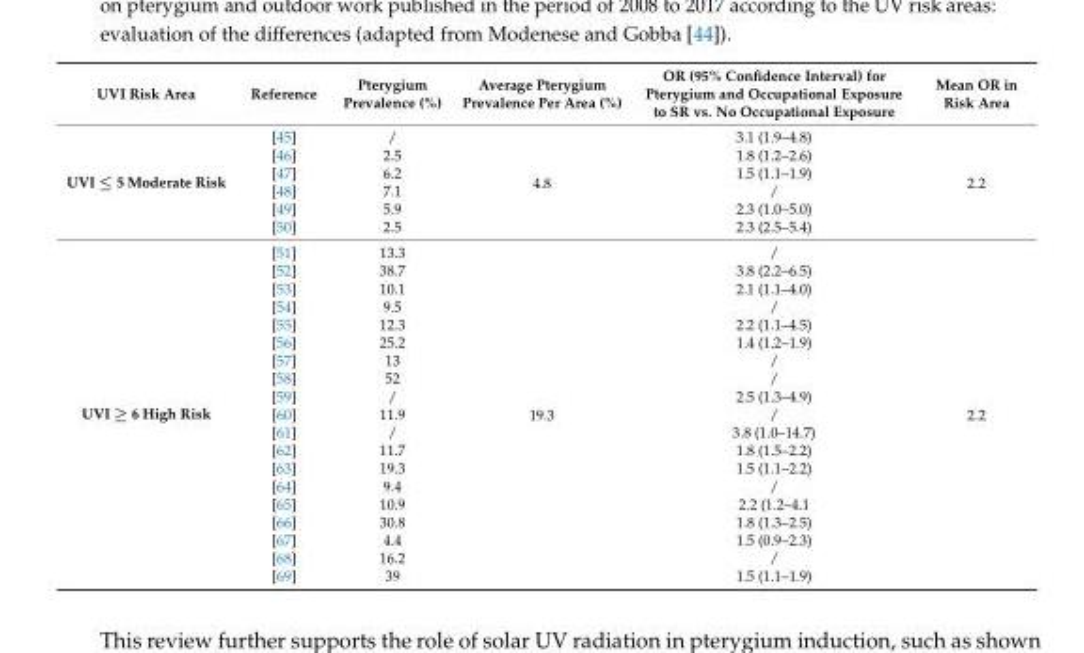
<table><thead><tr><td>UVI Risk Area</td><td>Reference</td><td>Pterygium Prevalence (%)</td><td>Average Pterygium Prevalence Per Area (%)</td><td>OR (95% Confidence Interval) for Pterygium and Occupational Exposure to SR vs. No Occupational Exposure</td><td>Mean OR in Risk Area</td></tr></thead><tbody><tr><td rowspan="6">UVI ≤ 5 Moderate Risk</td><td>[45]</td><td>/</td><td rowspan="6">4.8</td><td>3.1 (1.9–4.8)</td><td rowspan="6">2.2</td></tr><tr><td>[46]</td><td>2.5</td><td>1.8 (1.2–2.6)</td></tr><tr><td>[47]</td><td>6.2</td><td>1.5 (1.1–1.9)</td></tr><tr><td>[48]</td><td>7.1</td><td>/</td></tr><tr><td>[49]</td><td>5.9</td><td>2.3 (1.0–5.0)</td></tr><tr><td>[50]</td><td>2.5</td><td>2.3 (2.5–5.4)</td></tr><tr><td rowspan="19">UVI ≥ 6 High Risk</td><td>[51]</td><td>13.3</td><td rowspan="19">19.3</td><td>/</td><td rowspan="19">2.2</td></tr><tr><td>[52]</td><td>38.7</td><td>3.8 (2.2–6.5)</td></tr><tr><td>[53]</td><td>10.1</td><td>2.1 (1.1–4.0)</td></tr><tr><td>[54]</td><td>9.5</td><td>/</td></tr><tr><td>[55]</td><td>12.3</td><td>2.2 (1.1–4.5)</td></tr><tr><td>[56]</td><td>25.2</td><td>1.4 (1.2–1.9)</td></tr><tr><td>[57]</td><td>13</td><td>/</td></tr><tr><td>[58]</td><td>52</td><td>/</td></tr><tr><td>[59]</td><td>/</td><td>2.5 (1.3–4.9)</td></tr><tr><td>[60]</td><td>11.9</td><td>/</td></tr><tr><td>[61]</td><td>/</td><td>3.8 (1.0–14.7)</td></tr><tr><td>[62]</td><td>11.7</td><td>1.8 (1.5–2.2)</td></tr><tr><td>[63]</td><td>19.3</td><td>1.5 (1.1–2.2)</td></tr><tr><td>[64]</td><td>9.4</td><td>/</td></tr><tr><td>[65]</td><td>10.9</td><td>2.2 (1.2–4.1</td></tr><tr><td>[66]</td><td>30.8</td><td>1.8 (1.3–2.5)</td></tr><tr><td>[67]</td><td>4.4</td><td>1.5 (0.9–2.3)</td></tr><tr><td>[68]</td><td>16.2</td><td>/</td></tr><tr><td>[69]</td><td>39</td><td>1.5 (1.1–1.9)</td></tr></tbody></table>